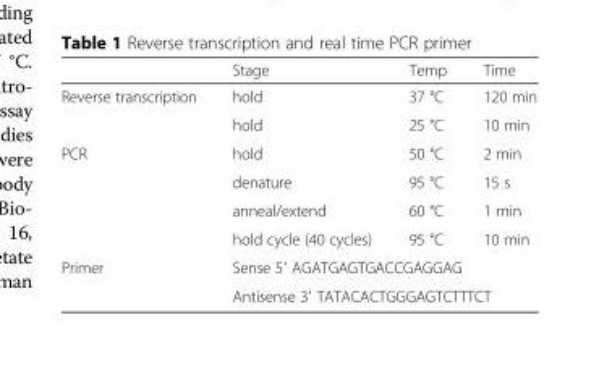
<table><thead><tr><td></td><td>Stage</td><td>Temp</td><td>Time</td></tr></thead><tbody><tr><td rowspan="2">Reverse transcription</td><td>hold</td><td>37 °C</td><td>120 min</td></tr><tr><td>hold</td><td>25 °C</td><td>10 min</td></tr><tr><td rowspan="4">PCR</td><td>hold</td><td>50 °C</td><td>2 min</td></tr><tr><td>denature</td><td>95 °C</td><td>15 s</td></tr><tr><td>anneal/extend</td><td>60 °C</td><td>1 min</td></tr><tr><td>hold cycle (40 cycles)</td><td>95 °C</td><td>10 min</td></tr><tr><td rowspan="2">Primer</td><td colspan="3">Sense 5′ AGATGAGTGACCGAGGAG</td></tr><tr><td colspan="3">Antisense 3′ TATACACTGGGAGTCTTTCT</td></tr></tbody></table>